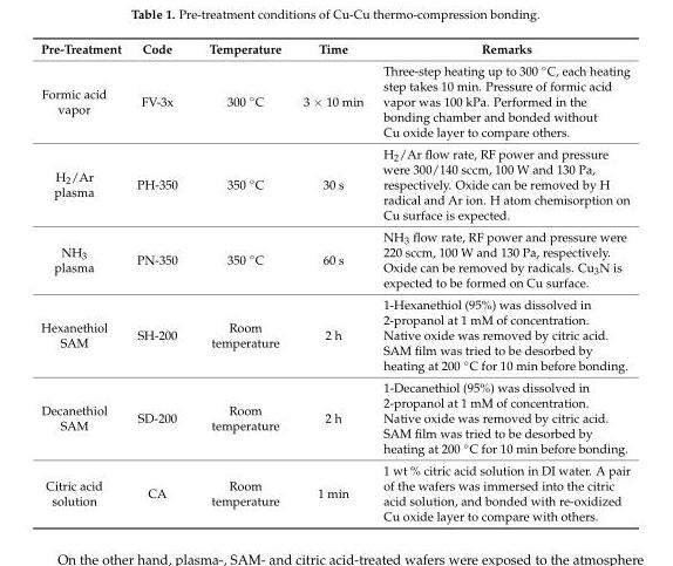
<table><thead><tr><td>Pre-Treatment</td><td>Code</td><td>Temperature</td><td>Time</td><td>Remarks</td></tr></thead><tbody><tr><td>Formic acid vapor</td><td>FV-3x</td><td>300 ◦C</td><td>3 × 10 min</td><td>Three-step heating up to 300 ◦C, each heating step takes 10 min. Pressure of formic acid vapor was 100 kPa. Performed in the bonding chamber and bonded without Cu oxide layer to compare others.</td></tr><tr><td>H<sub>2</sub>/Ar plasma</td><td>PH-350</td><td>350 ◦C</td><td>30 s</td><td>H<sub>2</sub>/Ar flow rate, RF power and pressure were 300/140 sccm, 100 W and 130 Pa, respectively. Oxide can be removed by H radical and Ar ion. H atom chemisorption on Cu surface is expected.</td></tr><tr><td>NH<sub>3</sub> plasma</td><td>PN-350</td><td>350 ◦C</td><td>60 s</td><td>NH<sub>3</sub> flow rate, RF power and pressure were 220 sccm, 100 W and 130 Pa, respectively. Oxide can be removed by radicals. Cu<sub>3</sub>N is expected to be formed on Cu surface.</td></tr><tr><td>Hexanethiol SAM</td><td>SH-200</td><td>Room temperature</td><td>2 h</td><td>1-Hexanethiol (95%) was dissolved in 2-propanol at 1 mM of concentration. Native oxide was removed by citric acid. SAM film was tried to be desorbed by heating at 200 ◦C for 10 min before bonding.</td></tr><tr><td>Decanethiol SAM</td><td>SD-200</td><td>Room temperature</td><td>2 h</td><td>1-Decanethiol (95%) was dissolved in 2-propanol at 1 mM of concentration. Native oxide was removed by citric acid. SAM film was tried to be desorbed by heating at 200 ◦C for 10 min before bonding.</td></tr><tr><td>Citric acid solution</td><td>CA</td><td>Room temperature</td><td>1 min</td><td>1 wt % citric acid solution in DI water. A pair of the wafers was immersed into the citric acid solution, and bonded with re-oxidized Cu oxide layer to compare with others.</td></tr></tbody></table>